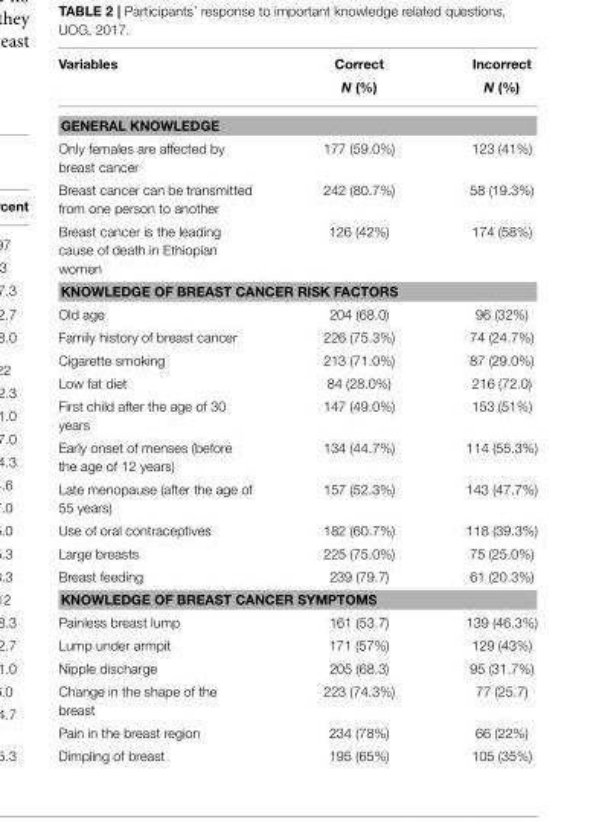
<table><thead><tr><td>Variables</td><td>Correct N (%)</td><td>Incorrect N (%)</td></tr></thead><tbody><tr><td colspan="3">GENERAL KNOWLEDGE</td></tr><tr><td>Only females are affected by breast cancer</td><td>177 (59.0%)</td><td>123 (41%)</td></tr><tr><td>Breast cancer can be transmitted from one person to another</td><td>242 (80.7%)</td><td>58 (19.3%)</td></tr><tr><td>Breast cancer is the leading cause of death in Ethiopian women</td><td>126 (42%)</td><td>174 (58%)</td></tr><tr><td colspan="3">KNOWLEDGE OF BREAST CANCER RISK FACTORS</td></tr><tr><td>Old age</td><td>204 (68.0)</td><td>96 (32%)</td></tr><tr><td>Family history of breast cancer</td><td>226 (75.3%)</td><td>74 (24.7%)</td></tr><tr><td>Cigarette smoking</td><td>213 (71.0%)</td><td>87 (29.0%)</td></tr><tr><td>Low fat diet</td><td>84 (28.0%)</td><td>216 (72.0)</td></tr><tr><td>First child after the age of 30 years</td><td>147 (49.0%)</td><td>153 (51%)</td></tr><tr><td>Early onset of menses (before the age of 12 years)</td><td>134 (44.7%)</td><td>114 (55.3%)</td></tr><tr><td>Late menopause (after the age of 55 years)</td><td>157 (52.3%)</td><td>143 (47.7%)</td></tr><tr><td>Use of oral contraceptives</td><td>182 (60.7%)</td><td>118 (39.3%)</td></tr><tr><td>Large breasts</td><td>225 (75.0%)</td><td>75 (25.0%)</td></tr><tr><td>Breast feeding</td><td>239 (79.7)</td><td>61 (20.3%)</td></tr><tr><td colspan="3">KNOWLEDGE OF BREAST CANCER SYMPTOMS</td></tr><tr><td>Painless breast lump</td><td>161 (53.7)</td><td>139 (46.3%)</td></tr><tr><td>Lump under armpit</td><td>171 (57%)</td><td>129 (43%)</td></tr><tr><td>Nipple discharge</td><td>205 (68.3)</td><td>95 (31.7%)</td></tr><tr><td>Change in the shape of the breast</td><td>223 (74.3%)</td><td>77 (25.7)</td></tr><tr><td>Pain in the breast region</td><td>234 (78%)</td><td>66 (22%)</td></tr><tr><td>Dimpling of breast</td><td>195 (65%)</td><td>105 (35%)</td></tr></tbody></table>